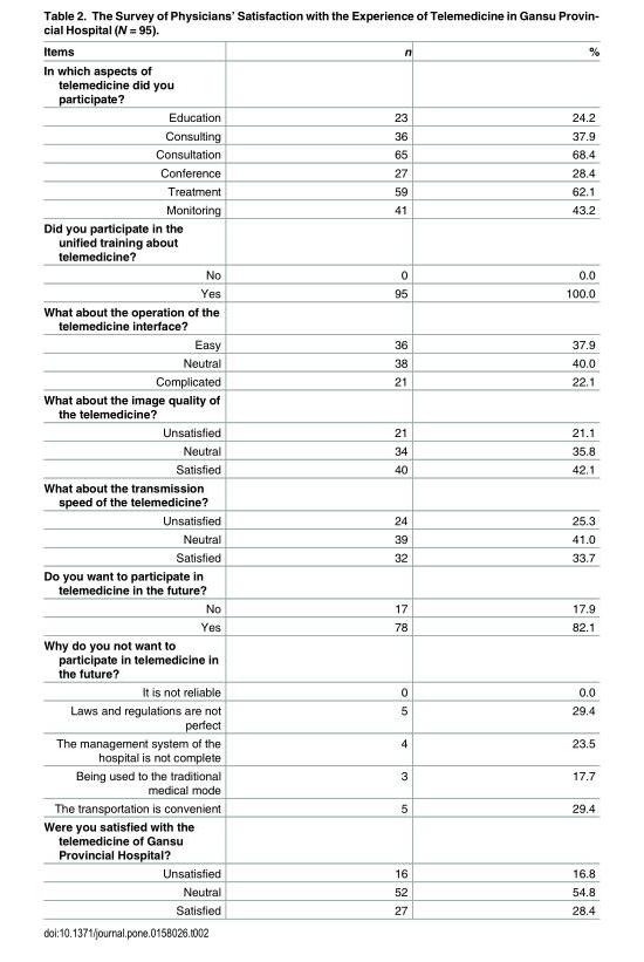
<table><thead><tr><td>Items</td><td>n</td><td>%</td></tr></thead><tbody><tr><td colspan="3">In which aspects of telemedicine did you participate?</td></tr><tr><td>Education</td><td>23</td><td>24.2</td></tr><tr><td>Consulting</td><td>36</td><td>37.9</td></tr><tr><td>Consultation</td><td>65</td><td>68.4</td></tr><tr><td>Conference</td><td>27</td><td>28.4</td></tr><tr><td>Treatment</td><td>59</td><td>62.1</td></tr><tr><td>Monitoring</td><td>41</td><td>43.2</td></tr><tr><td colspan="3">Did you participate in the unified training about telemedicine?</td></tr><tr><td>No</td><td>0</td><td>0.0</td></tr><tr><td>Yes</td><td>95</td><td>100.0</td></tr><tr><td colspan="3">What about the operation of the telemedicine interface?</td></tr><tr><td>Easy</td><td>36</td><td>37.9</td></tr><tr><td>Neutral</td><td>38</td><td>40.0</td></tr><tr><td>Complicated</td><td>21</td><td>22.1</td></tr><tr><td colspan="3">What about the image quality of the telemedicine?</td></tr><tr><td>Unsatisfied</td><td>21</td><td>21.1</td></tr><tr><td>Neutral</td><td>34</td><td>35.8</td></tr><tr><td>Satisfied</td><td>40</td><td>42.1</td></tr><tr><td colspan="3">What about the transmission speed of the telemedicine?</td></tr><tr><td>Unsatisfied</td><td>24</td><td>25.3</td></tr><tr><td>Neutral</td><td>39</td><td>41.0</td></tr><tr><td>Satisfied</td><td>32</td><td>33.7</td></tr><tr><td colspan="3">Do you want to participate in telemedicine in the future?</td></tr><tr><td>No</td><td>17</td><td>17.9</td></tr><tr><td>Yes</td><td>78</td><td>82.1</td></tr><tr><td colspan="3">Why do you not want to participate in telemedicine in the future?</td></tr><tr><td>It is not reliable</td><td>0</td><td>0.0</td></tr><tr><td>Laws and regulations are not perfect</td><td>5</td><td>29.4</td></tr><tr><td>The management system of the hospital is not complete</td><td>4</td><td>23.5</td></tr><tr><td>Being used to the traditional medical mode</td><td>3</td><td>17.7</td></tr><tr><td>The transportation is convenient</td><td>5</td><td>29.4</td></tr><tr><td colspan="3">Were you satisfied with the telemedicine of Gansu Provincial Hospital?</td></tr><tr><td>Unsatisfied</td><td>16</td><td>16.8</td></tr><tr><td>Neutral</td><td>52</td><td>54.8</td></tr><tr><td>Satisfied</td><td>27</td><td>28.4</td></tr></tbody></table>